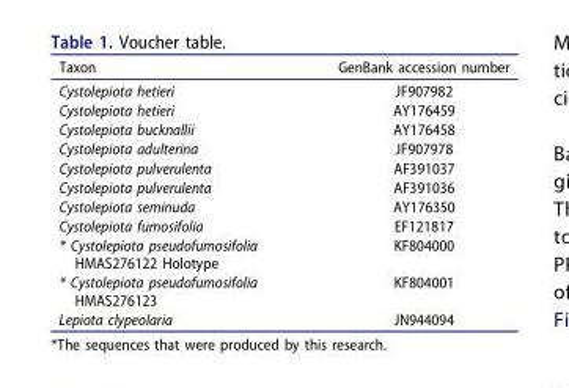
<table><thead><tr><td>Taxon</td><td>GenBank accession number</td></tr></thead><tbody><tr><td>Cystolepiota hetieri</td><td>JF907982</td></tr><tr><td>Cystolepiota hetieri</td><td>AY176459</td></tr><tr><td>Cystolepiota bucknallii</td><td>AY176458</td></tr><tr><td>Cystolepiota adulterina</td><td>JF907978</td></tr><tr><td>Cystolepiota pulverulenta</td><td>AF391037</td></tr><tr><td>Cystolepiota pulverulenta</td><td>AF391036</td></tr><tr><td>Cystolepiota seminuda</td><td>AY176350</td></tr><tr><td>Cystolepiota fumosifolia</td><td>EF121817</td></tr><tr><td>* Cystolepiota pseudofumosifolia HMAS276122 Holotype</td><td>KF804000</td></tr><tr><td>* Cystolepiota pseudofumosifolia HMAS276123</td><td>KF804001</td></tr><tr><td>Lepiota clypeolaria</td><td>JN944094</td></tr></tbody></table>